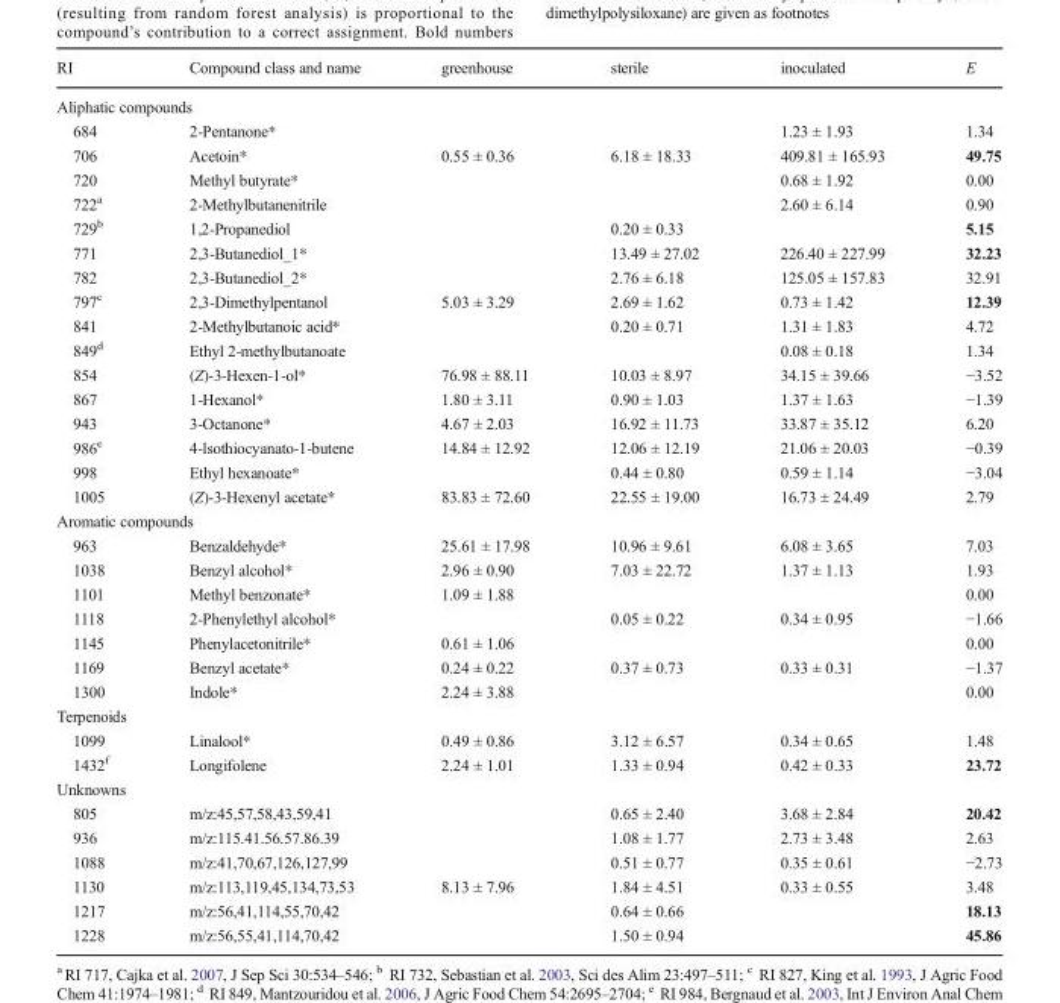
<table><thead><tr><td>RI</td><td>Compound class and name</td><td>greenhouse</td><td>sterile</td><td>inoculated</td><td>E</td></tr></thead><tbody><tr><td colspan="6">Aliphatic compounds</td></tr><tr><td>684</td><td>2-Pentanone*</td><td></td><td></td><td>1.23 ± 1.93</td><td>1.34</td></tr><tr><td>706</td><td>Acetoin*</td><td>0.55 ± 0.36</td><td>6.18 ± 18.33</td><td>409.81 ± 165.93</td><td>49.75</td></tr><tr><td>720</td><td>Methyl butyrate*</td><td></td><td></td><td>0.68 ± 1.92</td><td>0.00</td></tr><tr><td>722<sup>a</sup></td><td>2-Methylbutanenitrile</td><td></td><td></td><td>2.60 ± 6.14</td><td>0.90</td></tr><tr><td>729<sup>b</sup></td><td>1,2-Propanediol</td><td></td><td>0.20 ± 0.33</td><td></td><td>5.15</td></tr><tr><td>771</td><td>2,3-Butanediol_1*</td><td></td><td>13.49 ± 27.02</td><td>226.40 ± 227.99</td><td>32.23</td></tr><tr><td>782</td><td>2,3-Butanediol_2*</td><td></td><td>2.76 ± 6.18</td><td>125.05 ± 157.83</td><td>32.91</td></tr><tr><td>797<sup>c</sup></td><td>2,3-Dimethylpentanol</td><td>5.03 ± 3.29</td><td>2.69 ± 1.62</td><td>0.73 ± 1.42</td><td>12.39</td></tr><tr><td>841</td><td>2-Methylbutanoic acid*</td><td></td><td>0.20 ± 0.71</td><td>1.31 ± 1.83</td><td>4.72</td></tr><tr><td>849<sup>d</sup></td><td>Ethyl 2-methylbutanoate</td><td></td><td></td><td>0.08 ± 0.18</td><td>1.34</td></tr><tr><td>854</td><td>(Z)-3-Hexen-1-ol*</td><td>76.98 ± 88.11</td><td>10.03 ± 8.97</td><td>34.15 ± 39.66</td><td>−3.52</td></tr><tr><td>867</td><td>1-Hexanol*</td><td>1.80 ± 3.11</td><td>0.90 ± 1.03</td><td>1.37 ± 1.63</td><td>−1.39</td></tr><tr><td>943</td><td>3-Octanone*</td><td>4.67 ± 2.03</td><td>16.92 ± 11.73</td><td>33.87 ± 35.12</td><td>6.20</td></tr><tr><td>986<sup>e</sup></td><td>4-lsothiocyanato-1-butene</td><td>14.84 ± 12.92</td><td>12.06 ± 12.19</td><td>21.06 ± 20.03</td><td>−0.39</td></tr><tr><td>998</td><td>Ethyl hexanoate*</td><td></td><td>0.44 ± 0.80</td><td>0.59 ± 1.14</td><td>−3.04</td></tr><tr><td>1005</td><td>(Z)-3-Hexenyl acetate*</td><td>83.83 ± 72.60</td><td>22.55 ± 19.00</td><td>16.73 ± 24.49</td><td>2.79</td></tr><tr><td colspan="6">Aromatic compounds</td></tr><tr><td>963</td><td>Benzaldehyde*</td><td>25.61 ± 17.98</td><td>10.96 ± 9.61</td><td>6.08 ± 3.65</td><td>7.03</td></tr><tr><td>1038</td><td>Benzyl alcohol*</td><td>2.96 ± 0.90</td><td>7.03 ± 22.72</td><td>1.37 ± 1.13</td><td>1.93</td></tr><tr><td>1101</td><td>Methyl benzonate*</td><td>1.09 ± 1.88</td><td></td><td></td><td>0.00</td></tr><tr><td>1118</td><td>2-Phenylethyl alcohol*</td><td></td><td>0.05 ± 0.22</td><td>0.34 ± 0.95</td><td>−1.66</td></tr><tr><td>1145</td><td>Phenylacetonitrile*</td><td>0.61 ± 1.06</td><td></td><td></td><td>0.00</td></tr><tr><td>1169</td><td>Benzyl acetate*</td><td>0.24 ± 0.22</td><td>0.37 ± 0.73</td><td>0.33 ± 0.31</td><td>−1.37</td></tr><tr><td>1300</td><td>Indole*</td><td>2.24 ± 3.88</td><td></td><td></td><td>0.00</td></tr><tr><td colspan="6">Terpenoids</td></tr><tr><td>1099</td><td>Linalool*</td><td>0.49 ± 0.86</td><td>3.12 ± 6.57</td><td>0.34 ± 0.65</td><td>1.48</td></tr><tr><td>1432<sup>f</sup></td><td>Longifolene</td><td>2.24 ± 1.01</td><td>1.33 ± 0.94</td><td>0.42 ± 0.33</td><td>23.72</td></tr><tr><td colspan="6">Unknowns</td></tr><tr><td>805</td><td>m/z:45,57,58,43,59,41</td><td></td><td>0.65 ± 2.40</td><td>3.68 ± 2.84</td><td>20.42</td></tr><tr><td>936</td><td>m/z:115.41.56.57.86.39</td><td></td><td>1.08 ± 1.77</td><td>2.73 ± 3.48</td><td>2.63</td></tr><tr><td>1088</td><td>m/z:41,70,67,126,127,99</td><td></td><td>0.51 ± 0.77</td><td>0.35 ± 0.61</td><td>−2.73</td></tr><tr><td>1130</td><td>m/z:113,119,45,134,73,53</td><td>8.13 ± 7.96</td><td>1.84 ± 4.51</td><td>0.33 ± 0.55</td><td>3.48</td></tr><tr><td>1217</td><td>m/z:56,41,114,55,70,42</td><td></td><td>0.64 ± 0.66</td><td></td><td>18.13</td></tr><tr><td>1228</td><td>m/z:56,55,41,114,70,42</td><td></td><td>1.50 ± 0.94</td><td></td><td>45.86</td></tr></tbody></table>